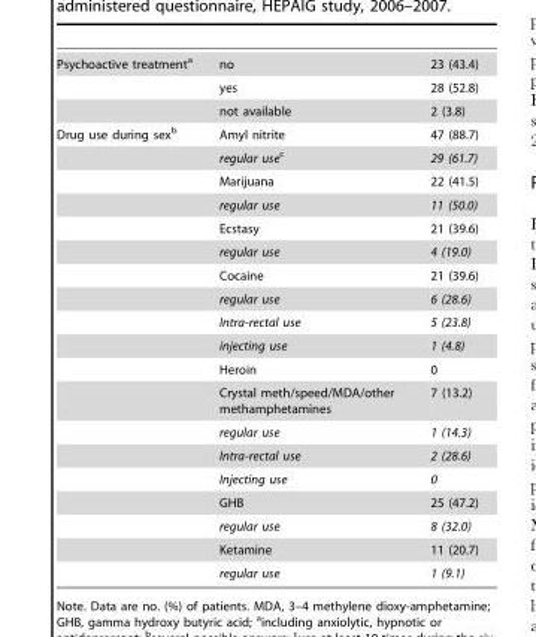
<table><tbody><tr><td rowspan="3">Psychoactive treatment<sup>a</sup></td><td>no</td><td>23 (43.4)</td></tr><tr><td>yes</td><td>28 (52.8)</td></tr><tr><td>not available</td><td>2 (3.8)</td></tr><tr><td rowspan="19">Drug use during sex<sup>b</sup></td><td>Amyl nitrite</td><td>47 (88.7)</td></tr><tr><td>regular use<sup>c</sup></td><td>29 (61.7)</td></tr><tr><td>Marijuana</td><td>22 (41.5)</td></tr><tr><td>regular use</td><td>11 (50.0)</td></tr><tr><td>Ecstasy</td><td>21 (39.6)</td></tr><tr><td>regular use</td><td>4 (19.0)</td></tr><tr><td>Cocaine</td><td>21 (39.6)</td></tr><tr><td>regular use</td><td>6 (28.6)</td></tr><tr><td>Intra-rectal use</td><td>5 (23.8)</td></tr><tr><td>injecting use</td><td>1 (4.8)</td></tr><tr><td>Heroin</td><td>0</td></tr><tr><td>Crystal meth/speed/MDA/other methamphetamines</td><td>7 (13.2)</td></tr><tr><td>regular use</td><td>1 (14.3)</td></tr><tr><td>Intra-rectal use</td><td>2 (28.6)</td></tr><tr><td>Injecting use</td><td>0</td></tr><tr><td>GHB</td><td>25 (47.2)</td></tr><tr><td>regular use</td><td>8 (32.0)</td></tr><tr><td>Ketamine</td><td>11 (20.7)</td></tr><tr><td>regular use</td><td>1 (9.1)</td></tr></tbody></table>